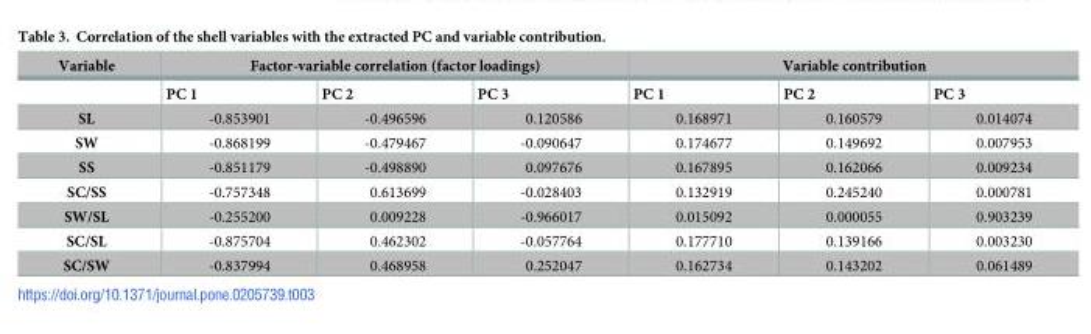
<table><thead><tr><td rowspan="2">Variable</td><td colspan="3">Factor-variable correlation (factor loadings)</td><td colspan="3">Variable contribution</td></tr><tr><td>PC 1</td><td>PC 2</td><td>PC 3</td><td>PC 1</td><td>PC 2</td><td>PC 3</td></tr></thead><tbody><tr><td>SL</td><td>-0.853901</td><td>-0.496596</td><td>0.120586</td><td>0.168971</td><td>0.160579</td><td>0.014074</td></tr><tr><td>SW</td><td>-0.868199</td><td>-0.479467</td><td>-0.090647</td><td>0.174677</td><td>0.149692</td><td>0.007953</td></tr><tr><td>SS</td><td>-0.851179</td><td>-0.498890</td><td>0.097676</td><td>0.167895</td><td>0.162066</td><td>0.009234</td></tr><tr><td>SC/SS</td><td>-0.757348</td><td>0.613699</td><td>-0.028403</td><td>0.132919</td><td>0.245240</td><td>0.000781</td></tr><tr><td>SW/SL</td><td>-0.255200</td><td>0.009228</td><td>-0.966017</td><td>0.015092</td><td>0.000055</td><td>0.903239</td></tr><tr><td>SC/SL</td><td>-0.875704</td><td>0.462302</td><td>-0.057764</td><td>0.177710</td><td>0.139166</td><td>0.003230</td></tr><tr><td>SC/SW</td><td>-0.837994</td><td>0.468958</td><td>0.252047</td><td>0.162734</td><td>0.143202</td><td>0.061489</td></tr></tbody></table>